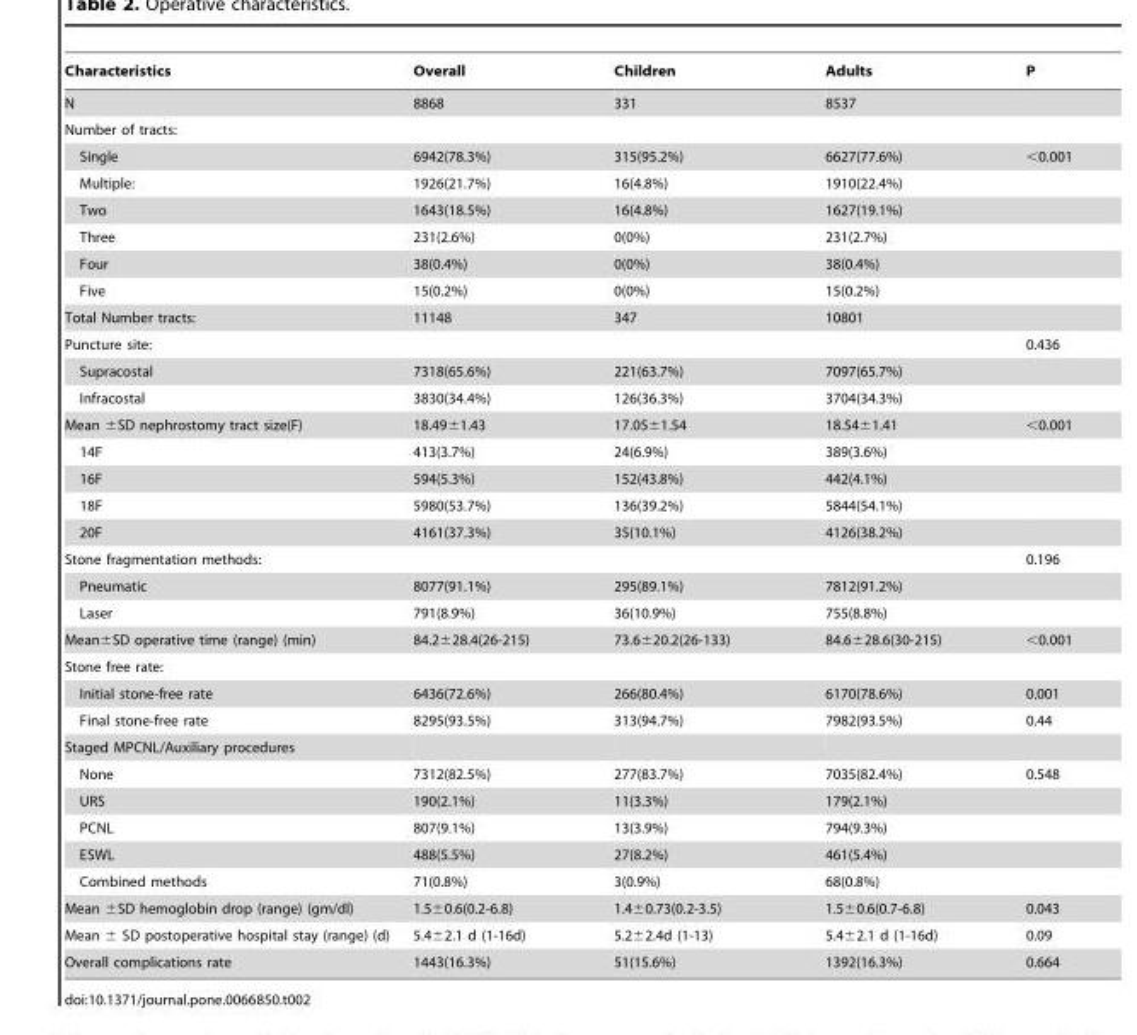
<table><thead><tr><td>Characteristics</td><td>Overall</td><td>Children</td><td>Adults</td><td>P</td></tr></thead><tbody><tr><td>N</td><td>8868</td><td>331</td><td>8537</td><td></td></tr><tr><td colspan="5">Number of tracts:</td></tr><tr><td>Single</td><td>6942(78.3%)</td><td>315(95.2%)</td><td>6627(77.6%)</td><td>&lt;0.001</td></tr><tr><td>Multiple:</td><td>1926(21.7%)</td><td>16(4.8%)</td><td>1910(22.4%)</td><td></td></tr><tr><td>Two</td><td>1643(18.5%)</td><td>16(4.8%)</td><td>1627(19.1%)</td><td></td></tr><tr><td>Three</td><td>231(2.6%)</td><td>0(0%)</td><td>231(2.7%)</td><td></td></tr><tr><td>Four</td><td>38(0.4%)</td><td>0(0%)</td><td>38(0.4%)</td><td></td></tr><tr><td>Five</td><td>15(0.2%)</td><td>0(0%)</td><td>15(0.2%)</td><td></td></tr><tr><td>Total Number tracts:</td><td>11148</td><td>347</td><td>10801</td><td></td></tr><tr><td>Puncture site:</td><td></td><td></td><td></td><td>0.436</td></tr><tr><td>Supracostal</td><td>7318(65.6%)</td><td>221(63.7%)</td><td>7097(65.7%)</td><td></td></tr><tr><td>Infracostal</td><td>3830(34.4%)</td><td>126(36.3%)</td><td>3704(34.3%)</td><td></td></tr><tr><td>Mean ±SD nephrostomy tract size(F)</td><td>18.49±1.43</td><td>17.05±1.54</td><td>18.54±1.41</td><td>&lt;0.001</td></tr><tr><td>14F</td><td>413(3.7%)</td><td>24(6.9%)</td><td>389(3.6%)</td><td></td></tr><tr><td>16F</td><td>594(5.3%)</td><td>152(43.8%)</td><td>442(4.1%)</td><td></td></tr><tr><td>18F</td><td>5980(53.7%)</td><td>136(39.2%)</td><td>5844(54.1%)</td><td></td></tr><tr><td>20F</td><td>4161(37.3%)</td><td>35(10.1%)</td><td>4126(38.2%)</td><td></td></tr><tr><td>Stone fragmentation methods:</td><td></td><td></td><td></td><td>0.196</td></tr><tr><td>Pneumatic</td><td>8077(91.1%)</td><td>295(89.1%)</td><td>7812(91.2%)</td><td></td></tr><tr><td>Laser</td><td>791(8.9%)</td><td>36(10.9%)</td><td>755(8.8%)</td><td></td></tr><tr><td>Mean±SD operative time (range) (min)</td><td>84.2±28.4(26-215)</td><td>73.6±20.2(26-133)</td><td>84.6±28.6(30-215)</td><td>&lt;0.001</td></tr><tr><td colspan="5">Stone free rate:</td></tr><tr><td>Initial stone-free rate</td><td>6436(72.6%)</td><td>266(80.4%)</td><td>6170(78.6%)</td><td>0.001</td></tr><tr><td>Final stone-free rate</td><td>8295(93.5%)</td><td>313(94.7%)</td><td>7982(93.5%)</td><td>0.44</td></tr><tr><td colspan="5">Staged MPCNL/Auxiliary procedures</td></tr><tr><td>None</td><td>7312(82.5%)</td><td>277(83.7%)</td><td>7035(82.4%)</td><td>0.548</td></tr><tr><td>URS</td><td>190(2.1%)</td><td>11(3.3%)</td><td>179(2.1%)</td><td></td></tr><tr><td>PCNL</td><td>807(9.1%)</td><td>13(3.9%)</td><td>794(9.3%)</td><td></td></tr><tr><td>ESWL</td><td>488(5.5%)</td><td>27(8.2%)</td><td>461(5.4%)</td><td></td></tr><tr><td>Combined methods</td><td>71(0.8%)</td><td>3(0.9%)</td><td>68(0.8%)</td><td></td></tr><tr><td>Mean ±SD hemoglobin drop (range) (gm/dl)</td><td>1.5±0.6(0.2-6.8)</td><td>1.4±0.73(0.2-3.5)</td><td>1.5±0.6(0.7-6.8)</td><td>0.043</td></tr><tr><td>Mean ± SD postoperative hospital stay (range) (d)</td><td>5.4±2.1 d (1-16d)</td><td>5.2±2.4d (1-13)</td><td>5.4±2.1 d (1-16d)</td><td>0.09</td></tr><tr><td>Overall complications rate</td><td>1443(16.3%)</td><td>51(15.6%)</td><td>1392(16.3%)</td><td>0.664</td></tr></tbody></table>